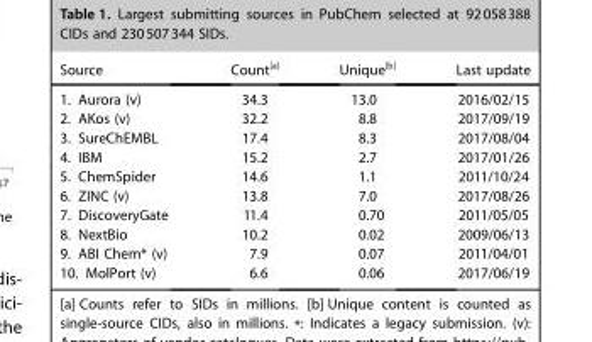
<table><thead><tr><td>Source</td><td>Count<sup>[a]</sup></td><td>Unique<sup>[b]</sup></td><td>Last update</td></tr></thead><tbody><tr><td>1. Aurora (v)</td><td>34.3</td><td>13.0</td><td>2016/02/15</td></tr><tr><td>2. AKos (v)</td><td>32.2</td><td>8.8</td><td>2017/09/19</td></tr><tr><td>3. SureChEMBL</td><td>17.4</td><td>8.3</td><td>2017/08/04</td></tr><tr><td>4. IBM</td><td>15.2</td><td>2.7</td><td>2017/01/26</td></tr><tr><td>5. ChemSpider</td><td>14.6</td><td>1.1</td><td>2011/10/24</td></tr><tr><td>6. ZINC (v)</td><td>13.8</td><td>7.0</td><td>2017/08/26</td></tr><tr><td>7. DiscoveryGate</td><td>11.4</td><td>0.70</td><td>2011/05/05</td></tr><tr><td>8. NextBio</td><td>10.2</td><td>0.02</td><td>2009/06/13</td></tr><tr><td>9. ABI Chem* (v)</td><td>7.9</td><td>0.07</td><td>2011/04/01</td></tr><tr><td>10. MolPort (v)</td><td>6.6</td><td>0.06</td><td>2017/06/19</td></tr></tbody></table>